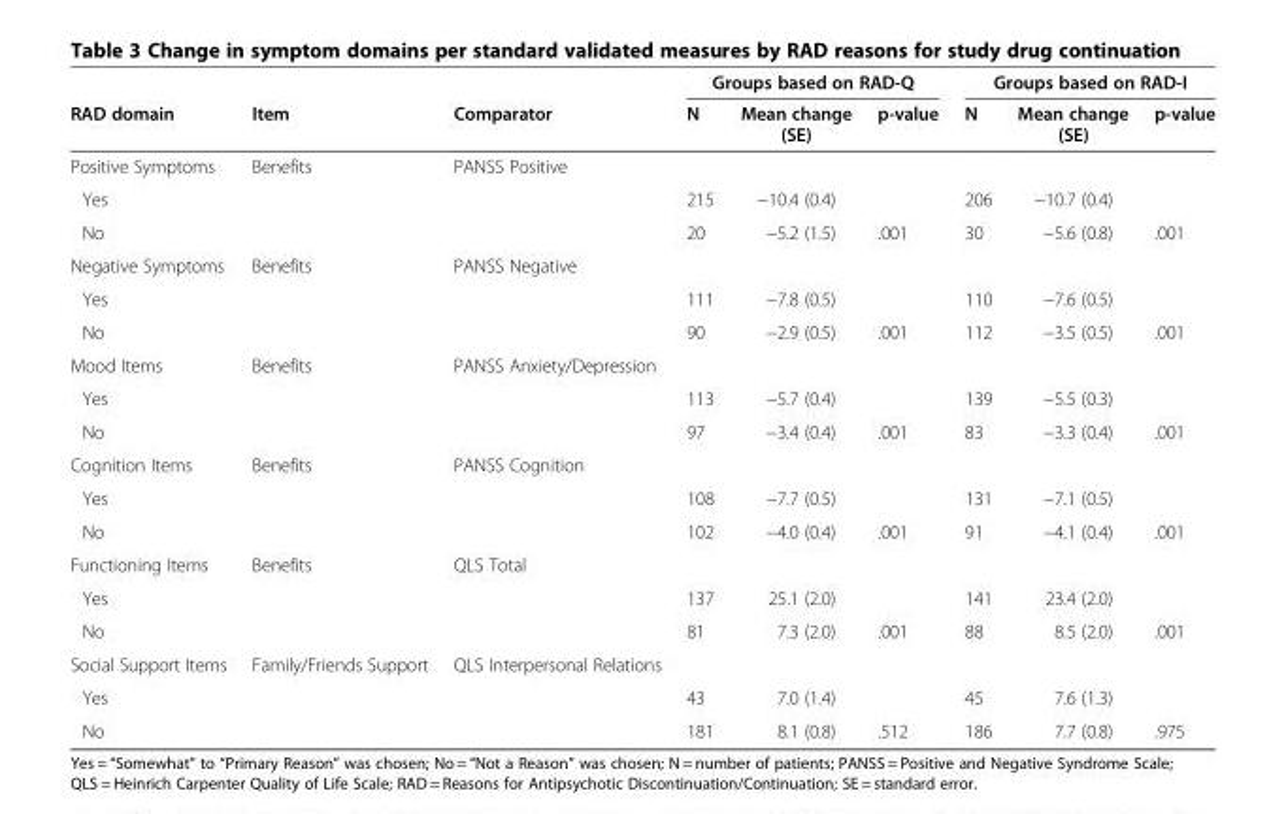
<table><thead><tr><td rowspan="2">RAD domain</td><td rowspan="2">Item</td><td rowspan="2">Comparator</td><td colspan="3">Groups based on RAD-Q</td><td colspan="3">Groups based on RAD-I</td></tr><tr><td>N</td><td>Mean change (SE)</td><td>p-value</td><td>N</td><td>Mean change (SE)</td><td>p-value</td></tr></thead><tbody><tr><td>Positive Symptoms</td><td>Benefits</td><td>PANSS Positive</td><td></td><td></td><td></td><td></td><td></td><td></td></tr><tr><td>Yes</td><td></td><td></td><td>215</td><td>−10.4 (0.4)</td><td></td><td>206</td><td>−10.7 (0.4)</td><td></td></tr><tr><td>No</td><td></td><td></td><td>20</td><td>−5.2 (1.5)</td><td>.001</td><td>30</td><td>−5.6 (0.8)</td><td>.001</td></tr><tr><td>Negative Symptoms</td><td>Benefits</td><td>PANSS Negative</td><td></td><td></td><td></td><td></td><td></td><td></td></tr><tr><td>Yes</td><td></td><td></td><td>111</td><td>−7.8 (0.5)</td><td></td><td>110</td><td>−7.6 (0.5)</td><td></td></tr><tr><td>No</td><td></td><td></td><td>90</td><td>−2.9 (0.5)</td><td>.001</td><td>112</td><td>−3.5 (0.5)</td><td>.001</td></tr><tr><td>Mood Items</td><td>Benefits</td><td>PANSS Anxiety/Depression</td><td></td><td></td><td></td><td></td><td></td><td></td></tr><tr><td>Yes</td><td></td><td></td><td>113</td><td>−5.7 (0.4)</td><td></td><td>139</td><td>−5.5 (0.3)</td><td></td></tr><tr><td>No</td><td></td><td></td><td>97</td><td>−3.4 (0.4)</td><td>.001</td><td>83</td><td>−3.3 (0.4)</td><td>.001</td></tr><tr><td>Cognition Items</td><td>Benefits</td><td>PANSS Cognition</td><td></td><td></td><td></td><td></td><td></td><td></td></tr><tr><td>Yes</td><td></td><td></td><td>108</td><td>−7.7 (0.5)</td><td></td><td>131</td><td>−7.1 (0.5)</td><td></td></tr><tr><td>No</td><td></td><td></td><td>102</td><td>−4.0 (0.4)</td><td>.001</td><td>91</td><td>−4.1 (0.4)</td><td>.001</td></tr><tr><td>Functioning Items</td><td>Benefits</td><td>QLS Total</td><td></td><td></td><td></td><td></td><td></td><td></td></tr><tr><td>Yes</td><td></td><td></td><td>137</td><td>25.1 (2.0)</td><td></td><td>141</td><td>23.4 (2.0)</td><td></td></tr><tr><td>No</td><td></td><td></td><td>81</td><td>7.3 (2.0)</td><td>.001</td><td>88</td><td>8.5 (2.0)</td><td>.001</td></tr><tr><td>Social Support Items</td><td>Family/Friends Support</td><td>QLS Interpersonal Relations</td><td></td><td></td><td></td><td></td><td></td><td></td></tr><tr><td>Yes</td><td></td><td></td><td>43</td><td>7.0 (1.4)</td><td></td><td>45</td><td>7.6 (1.3)</td><td></td></tr><tr><td>No</td><td></td><td></td><td>181</td><td>8.1 (0.8)</td><td>.512</td><td>186</td><td>7.7 (0.8)</td><td>.975</td></tr></tbody></table>